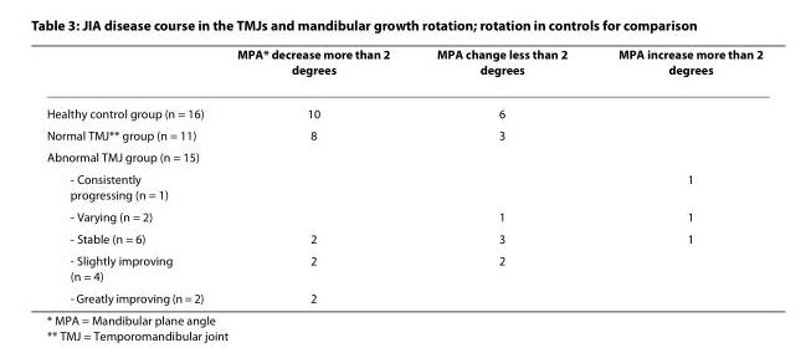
<table><thead><tr><td></td><td>MPA* decrease more than 2 degrees</td><td>MPA change less than 2 degrees</td><td>MPA increase more than 2 degrees</td></tr></thead><tbody><tr><td>Healthy control group (n = 16)</td><td>10</td><td>6</td><td></td></tr><tr><td>Normal TMJ** group (n = 11)</td><td>8</td><td>3</td><td></td></tr><tr><td colspan="4">Abnormal TMJ group (n = 15)</td></tr><tr><td>- Consistently progressing (n = 1)</td><td></td><td></td><td>1</td></tr><tr><td>- Varying (n = 2)</td><td></td><td>1</td><td>1</td></tr><tr><td>- Stable (n = 6)</td><td>2</td><td>3</td><td>1</td></tr><tr><td>- Slightly improving (n = 4)</td><td>2</td><td>2</td><td></td></tr><tr><td>- Greatly improving (n = 2)</td><td>2</td><td></td><td></td></tr></tbody></table>